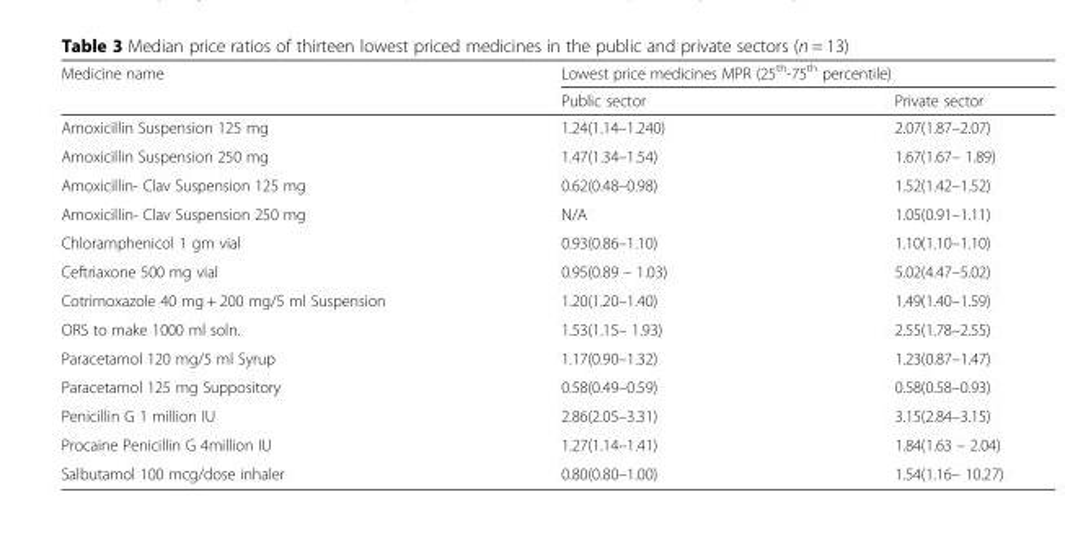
<table><thead><tr><td rowspan="2">Medicine name</td><td colspan="2">Lowest price medicines MPR (25<sup>th</sup>-75<sup>th</sup> percentile)</td></tr><tr><td>Public sector</td><td>Private sector</td></tr></thead><tbody><tr><td>Amoxicillin Suspension 125 mg</td><td>1.24(1.14–1.240)</td><td>2.07(1.87–2.07)</td></tr><tr><td>Amoxicillin Suspension 250 mg</td><td>1.47(1.34–1.54)</td><td>1.67(1.67– 1.89)</td></tr><tr><td>Amoxicillin- Clav Suspension 125 mg</td><td>0.62(0.48–0.98)</td><td>1.52(1.42–1.52)</td></tr><tr><td>Amoxicillin- Clav Suspension 250 mg</td><td>N/A</td><td>1.05(0.91–1.11)</td></tr><tr><td>Chloramphenicol 1 gm vial</td><td>0.93(0.86–1.10)</td><td>1.10(1.10–1.10)</td></tr><tr><td>Ceftriaxone 500 mg vial</td><td>0.95(0.89 – 1.03)</td><td>5.02(4.47–5.02)</td></tr><tr><td>Cotrimoxazole 40 mg + 200 mg/5 ml Suspension</td><td>1.20(1.20–1.40)</td><td>1.49(1.40–1.59)</td></tr><tr><td>ORS to make 1000 ml soln.</td><td>1.53(1.15– 1.93)</td><td>2.55(1.78–2.55)</td></tr><tr><td>Paracetamol 120 mg/5 ml Syrup</td><td>1.17(0.90–1.32)</td><td>1.23(0.87–1.47)</td></tr><tr><td>Paracetamol 125 mg Suppository</td><td>0.58(0.49–0.59)</td><td>0.58(0.58–0.93)</td></tr><tr><td>Penicillin G 1 million IU</td><td>2.86(2.05–3.31)</td><td>3.15(2.84–3.15)</td></tr><tr><td>Procaine Penicillin G 4million IU</td><td>1.27(1.14–1.41)</td><td>1.84(1.63 – 2.04)</td></tr><tr><td>Salbutamol 100 mcg/dose inhaler</td><td>0.80(0.80–1.00)</td><td>1.54(1.16– 10.27)</td></tr></tbody></table>